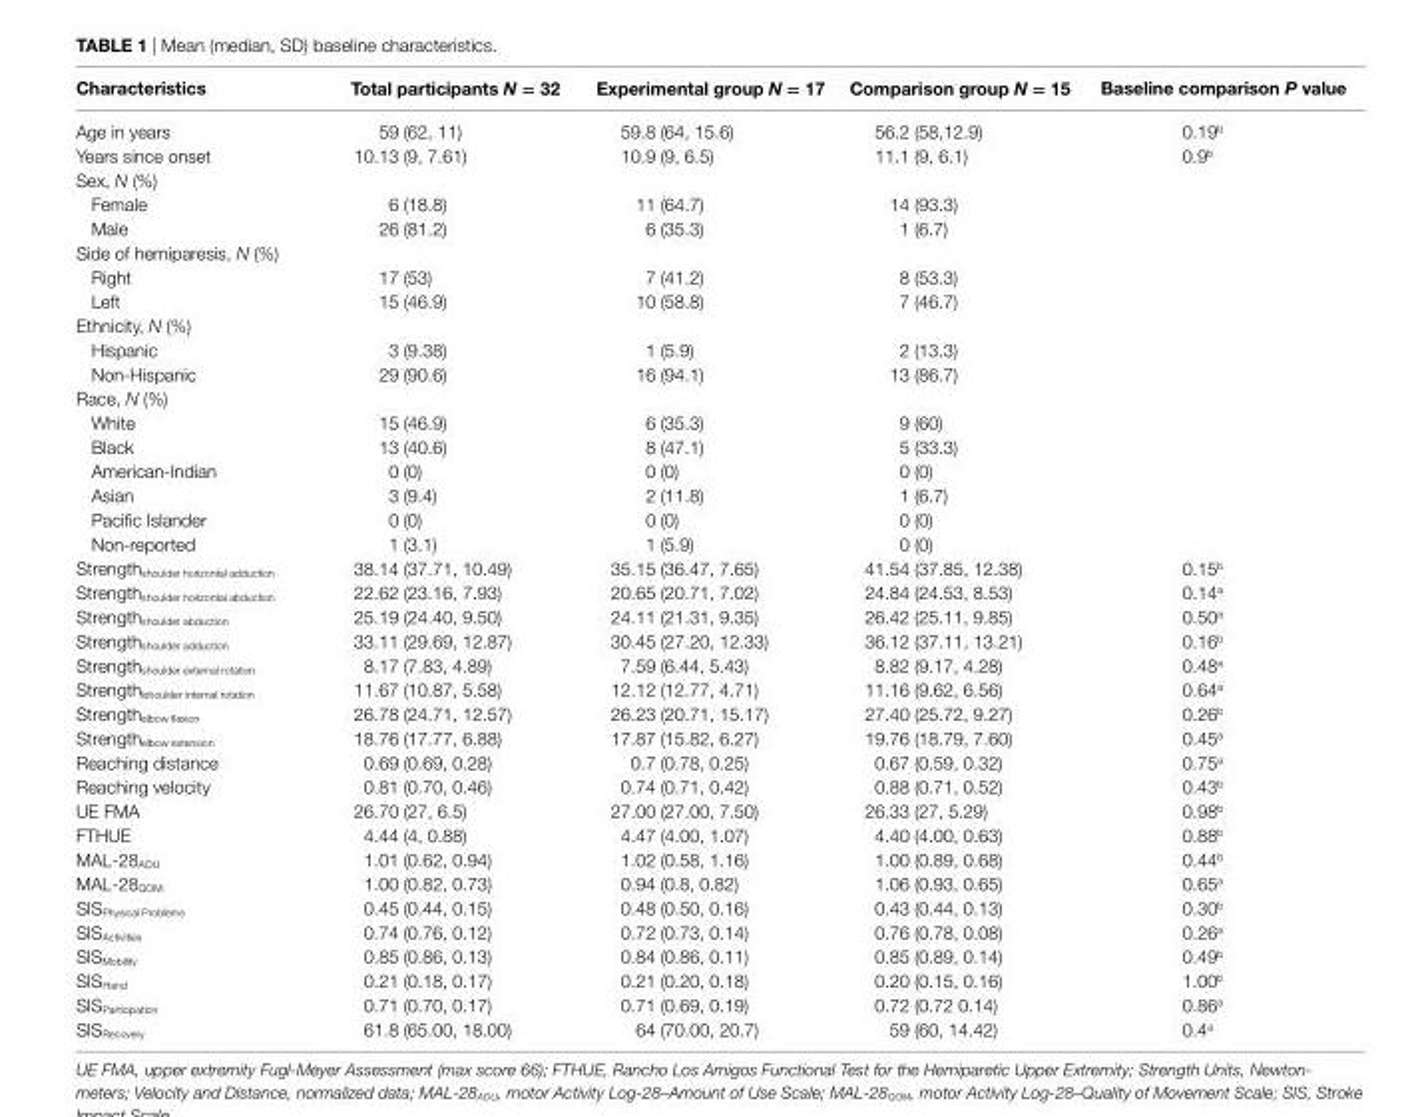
<table><thead><tr><td>characteristics</td><td>Total participants N = 32</td><td>experimental group N = 17</td><td>comparison group N = 15</td><td>Baseline comparison P value</td></tr></thead><tbody><tr><td>Age in years</td><td>59 (62, 11)</td><td>59.8 (64, 15.6)</td><td>56.2 (58,12.9)</td><td>0.19<sup>b</sup></td></tr><tr><td>Years since onset</td><td>10.13 (9, 7.61)</td><td>10.9 (9, 6.5)</td><td>11.1 (9, 6.1)</td><td>0.9<sup>b</sup></td></tr><tr><td colspan="5">Sex, N (%)</td></tr><tr><td>Female</td><td>6 (18.8)</td><td>11 (64.7)</td><td>14 (93.3)</td><td></td></tr><tr><td>Male</td><td>26 (81.2)</td><td>6 (35.3)</td><td>1 (6.7)</td><td></td></tr><tr><td colspan="5">Side of hemiparesis, N (%)</td></tr><tr><td>Right</td><td>17 (53)</td><td>7 (41.2)</td><td>8 (53.3)</td><td></td></tr><tr><td>Left</td><td>15 (46.9)</td><td>10 (58.8)</td><td>7 (46.7)</td><td></td></tr><tr><td colspan="5">Ethnicity, N (%)</td></tr><tr><td>Hispanic</td><td>3 (9.38)</td><td>1 (5.9)</td><td>2 (13.3)</td><td></td></tr><tr><td>Non-Hispanic</td><td>29 (90.6)</td><td>16 (94.1)</td><td>13 (86.7)</td><td></td></tr><tr><td colspan="5">Race, N (%)</td></tr><tr><td>White</td><td>15 (46.9)</td><td>6 (35.3)</td><td>9 (60)</td><td></td></tr><tr><td>Black</td><td>13 (40.6)</td><td>8 (47.1)</td><td>5 (33.3)</td><td></td></tr><tr><td>American-Indian</td><td>0 (0)</td><td>0 (0)</td><td>0 (0)</td><td></td></tr><tr><td>Asian</td><td>3 (9.4)</td><td>2 (11.8)</td><td>1 (6.7)</td><td></td></tr><tr><td>Pacific Islander</td><td>0 (0)</td><td>0 (0)</td><td>0 (0)</td><td></td></tr><tr><td>Non-reported</td><td>1 (3.1)</td><td>1 (5.9)</td><td>0 (0)</td><td></td></tr><tr><td>Strength<sub>shoulder horizontal adduction</sub></td><td>38.14 (37.71, 10.49)</td><td>35.15 (36.47, 7.65)</td><td>41.54 (37.85, 12.38)</td><td>0.15<sup>b</sup></td></tr><tr><td>Strength<sub>shoulder horizontal abduction</sub></td><td>22.62 (23.16, 7.93)</td><td>20.65 (20.71, 7.02)</td><td>24.84 (24.53, 8.53)</td><td>0.14<sup>a</sup></td></tr><tr><td>Strength<sub>shoulder abduction</sub></td><td>25.19 (24.40, 9.50)</td><td>24.11 (21.31, 9.35)</td><td>26.42 (25.11, 9.85)</td><td>0.50<sup>a</sup></td></tr><tr><td>Strength<sub>shoulder adduction</sub></td><td>33.11 (29.69, 12.87)</td><td>30.45 (27.20, 12.33)</td><td>36.12 (37.11, 13.21)</td><td>0.16<sup>b</sup></td></tr><tr><td>Strength<sub>shoulder external rotation</sub></td><td>8.17 (7.83, 4.89)</td><td>7.59 (6.44, 5.43)</td><td>8.82 (9.17, 4.28)</td><td>0.48<sup>a</sup></td></tr><tr><td>Strength<sub>ishoulder internal rotation</sub></td><td>11.67 (10.87, 5.58)</td><td>12.12 (12.77, 4.71)</td><td>11.16 (9.62, 6.56)</td><td>0.64<sup>a</sup></td></tr><tr><td>Strength<sub>elbow flexion</sub></td><td>26.78 (24.71, 12.57)</td><td>26.23 (20.71, 15.17)</td><td>27.40 (25.72, 9.27)</td><td>0.26<sup>b</sup></td></tr><tr><td>Strength<sub>elbow extension</sub></td><td>18.76 (17.77, 6.88)</td><td>17.87 (15.82, 6.27)</td><td>19.76 (18.79, 7.60)</td><td>0.45<sup>a</sup></td></tr><tr><td>Reaching distance</td><td>0.69 (0.69, 0.28)</td><td>0.7 (0.78, 0.25)</td><td>0.67 (0.59, 0.32)</td><td>0.75<sup>a</sup></td></tr><tr><td>Reaching velocity</td><td>0.81 (0.70, 0.46)</td><td>0.74 (0.71, 0.42)</td><td>0.88 (0.71, 0.52)</td><td>0.43<sup>b</sup></td></tr><tr><td>UE FMA</td><td>26.70 (27, 6.5)</td><td>27.00 (27.00, 7.50)</td><td>26.33 (27, 5.29)</td><td>0.98<sup>b</sup></td></tr><tr><td>FTHUE</td><td>4.44 (4, 0.88)</td><td>4.47 (4.00, 1.07)</td><td>4.40 (4.00, 0.63)</td><td>0.88<sup>b</sup></td></tr><tr><td>MAL-28<sub>AOU</sub></td><td>1.01 (0.62, 0.94)</td><td>1.02 (0.58, 1.16)</td><td>1.00 (0.89, 0.68)</td><td>0.44<sup>b</sup></td></tr><tr><td>MAL-28<sub>QOM</sub></td><td>1.00 (0.82, 0.73)</td><td>0.94 (0.8, 0.82)</td><td>1.06 (0.93, 0.65)</td><td>0.65<sup>a</sup></td></tr><tr><td>SIS<sub>Physical Problems</sub></td><td>0.45 (0.44, 0.15)</td><td>0.48 (0.50, 0.16)</td><td>0.43 (0.44, 0.13)</td><td>0.30<sup>b</sup></td></tr><tr><td>SIS<sub>Activities</sub></td><td>0.74 (0.76, 0.12)</td><td>0.72 (0.73, 0.14)</td><td>0.76 (0.78, 0.08)</td><td>0.26<sup>a</sup></td></tr><tr><td>SIS<sub>Mobility</sub></td><td>0.85 (0.86, 0.13)</td><td>0.84 (0.86, 0.11)</td><td>0.85 (0.89, 0.14)</td><td>0.49<sup>b</sup></td></tr><tr><td>SIS<sub>Hand</sub></td><td>0.21 (0.18, 0.17)</td><td>0.21 (0.20, 0.18)</td><td>0.20 (0.15, 0.16)</td><td>1.00<sup>b</sup></td></tr><tr><td>SIS<sub>Participation</sub></td><td>0.71 (0.70, 0.17)</td><td>0.71 (0.69, 0.19)</td><td>0.72 (0.72 0.14)</td><td>0.86<sup>a</sup></td></tr><tr><td>SIS<sub>Recovery</sub></td><td>61.8 (65.00, 18.00)</td><td>64 (70.00, 20.7)</td><td>59 (60, 14.42)</td><td>0.4<sup>a</sup></td></tr></tbody></table>